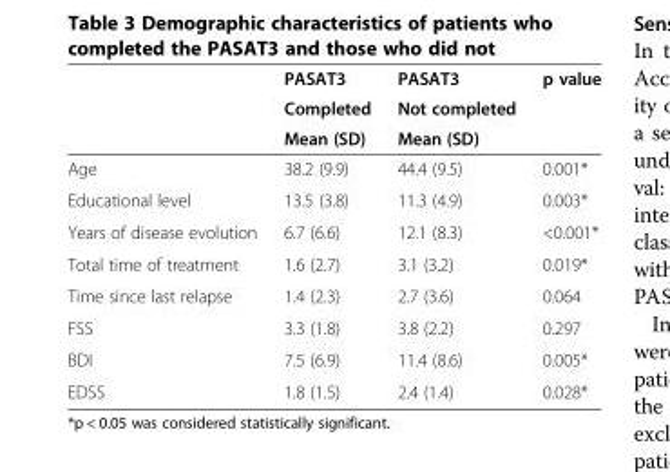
<table><thead><tr><td rowspan="3"></td><td rowspan="3">PASAT3 Completed Mean (SD)</td><td rowspan="3">PASAT3 Not completed Mean (SD)</td><td rowspan="3">p value</td></tr><tr></tr><tr></tr></thead><tbody><tr><td>Age</td><td>38.2 (9.9)</td><td>44.4 (9.5)</td><td>0.001*</td></tr><tr><td>Educational level</td><td>13.5 (3.8)</td><td>11.3 (4.9)</td><td>0.003*</td></tr><tr><td>Years of disease evolution</td><td>6.7 (6.6)</td><td>12.1 (8.3)</td><td>&lt;0.001*</td></tr><tr><td>Total time of treatment</td><td>1.6 (2.7)</td><td>3.1 (3.2)</td><td>0.019*</td></tr><tr><td>Time since last relapse</td><td>1.4 (2.3)</td><td>2.7 (3.6)</td><td>0.064</td></tr><tr><td>FSS</td><td>3.3 (1.8)</td><td>3.8 (2.2)</td><td>0.297</td></tr><tr><td>BDI</td><td>7.5 (6.9)</td><td>11.4 (8.6)</td><td>0.005*</td></tr><tr><td>EDSS</td><td>1.8 (1.5)</td><td>2.4 (1.4)</td><td>0.028*</td></tr></tbody></table>